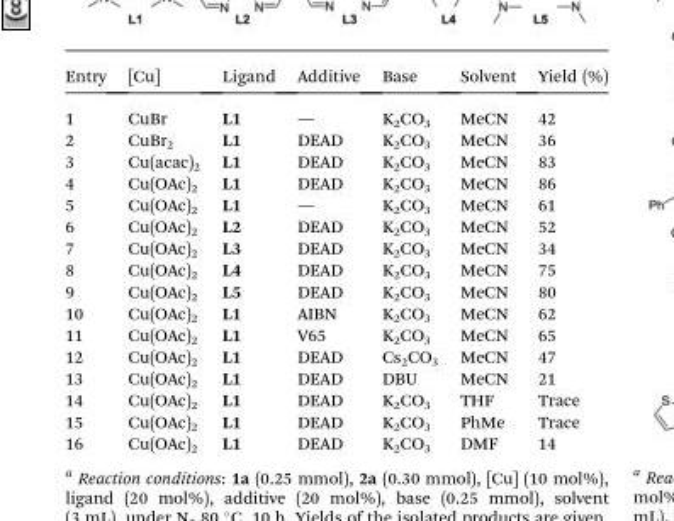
<table><thead><tr><td>Entry</td><td>[Cu]</td><td>Ligand</td><td>Additive</td><td>Base</td><td>Solvent</td><td>Yield (%)</td></tr></thead><tbody><tr><td>1</td><td>CuBr</td><td>L1</td><td>—</td><td>K<sub>2</sub>CO<sub>3</sub></td><td>MeCN</td><td>42</td></tr><tr><td>2</td><td>CuBr<sub>2</sub></td><td>L1</td><td>DEAD</td><td>K<sub>2</sub>CO<sub>3</sub></td><td>MeCN</td><td>36</td></tr><tr><td>3</td><td>Cu(acac)<sub>2</sub></td><td>L1</td><td>DEAD</td><td>K<sub>2</sub>CO<sub>3</sub></td><td>MeCN</td><td>83</td></tr><tr><td>4</td><td>Cu(OAc)<sub>2</sub></td><td>L1</td><td>DEAD</td><td>K<sub>2</sub>CO<sub>3</sub></td><td>MeCN</td><td>86</td></tr><tr><td>5</td><td>Cu(OAc)<sub>2</sub></td><td>L1</td><td>—</td><td>K<sub>2</sub>CO<sub>3</sub></td><td>MeCN</td><td>61</td></tr><tr><td>6</td><td>Cu(OAc)<sub>2</sub></td><td>L2</td><td>DEAD</td><td>K<sub>2</sub>CO<sub>3</sub></td><td>MeCN</td><td>52</td></tr><tr><td>7</td><td>Cu(OAc)<sub>2</sub></td><td>L3</td><td>DEAD</td><td>K<sub>2</sub>CO<sub>3</sub></td><td>MeCN</td><td>34</td></tr><tr><td>8</td><td>Cu(OAc)<sub>2</sub></td><td>L4</td><td>DEAD</td><td>K<sub>2</sub>CO<sub>3</sub></td><td>MeCN</td><td>75</td></tr><tr><td>9</td><td>Cu(OAc)<sub>2</sub></td><td>L5</td><td>DEAD</td><td>K<sub>2</sub>CO<sub>3</sub></td><td>MeCN</td><td>80</td></tr><tr><td>10</td><td>Cu(OAc)<sub>2</sub></td><td>L1</td><td>AIBN</td><td>K<sub>2</sub>CO<sub>3</sub></td><td>MeCN</td><td>62</td></tr><tr><td>11</td><td>Cu(OAc)<sub>2</sub></td><td>L1</td><td>V65</td><td>K<sub>2</sub>CO<sub>3</sub></td><td>MeCN</td><td>65</td></tr><tr><td>12</td><td>Cu(OAc)<sub>2</sub></td><td>L1</td><td>DEAD</td><td>Cs<sub>2</sub>CO<sub>3</sub></td><td>MeCN</td><td>47</td></tr><tr><td>13</td><td>Cu(OAc)<sub>2</sub></td><td>L1</td><td>DEAD</td><td>DBU</td><td>MeCN</td><td>21</td></tr><tr><td>14</td><td>Cu(OAc)<sub>2</sub></td><td>L1</td><td>DEAD</td><td>K<sub>2</sub>CO<sub>3</sub></td><td>THF</td><td>Trace</td></tr><tr><td>15</td><td>Cu(OAc)<sub>2</sub></td><td>L1</td><td>DEAD</td><td>K<sub>2</sub>CO<sub>3</sub></td><td>PhMe</td><td>Trace</td></tr><tr><td>16</td><td>Cu(OAc)<sub>2</sub></td><td>L1</td><td>DEAD</td><td>K<sub>2</sub>CO<sub>3</sub></td><td>DMF</td><td>14</td></tr></tbody></table>